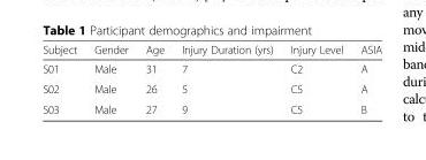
<table><thead><tr><td>Subject</td><td>Gender</td><td>Age</td><td>Injury Duration (yrs)</td><td>Injury Level</td><td>ASIA</td></tr></thead><tbody><tr><td>S01</td><td>Male</td><td>31</td><td>7</td><td>C2</td><td>A</td></tr><tr><td>S02</td><td>Male</td><td>26</td><td>5</td><td>C5</td><td>A</td></tr><tr><td>S03</td><td>Male</td><td>27</td><td>9</td><td>C5</td><td>B</td></tr></tbody></table>